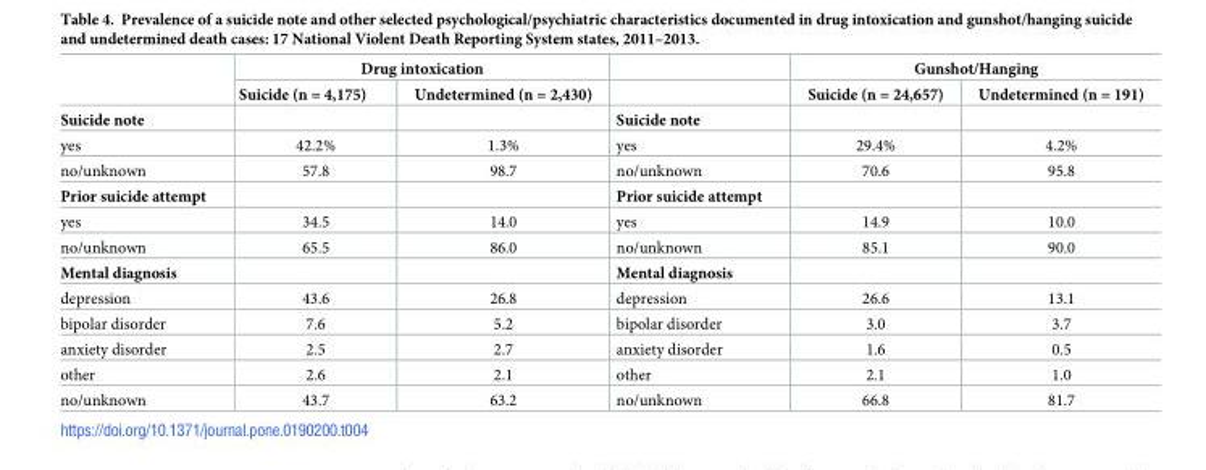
<table><thead><tr><td rowspan="2"></td><td colspan="2">Drug intoxication</td><td rowspan="2"></td><td colspan="2">Gunshot/Hanging</td></tr><tr><td>Suicide (n = 4,175)</td><td>Undetermined (n = 2,430)</td><td>Suicide (n = 24,657)</td><td>Undetermined (n = 191)</td></tr></thead><tbody><tr><td>Suicide note</td><td></td><td></td><td>Suicide note</td><td></td><td></td></tr><tr><td>yes</td><td>42.2%</td><td>1.3%</td><td>yes</td><td>29.4%</td><td>4.2%</td></tr><tr><td>no/unknown</td><td>57.8</td><td>98.7</td><td>no/unknown</td><td>70.6</td><td>95.8</td></tr><tr><td>Prior suicide attempt</td><td></td><td></td><td>Prior suicide attempt</td><td></td><td></td></tr><tr><td>yes</td><td>34.5</td><td>14.0</td><td>yes</td><td>14.9</td><td>10.0</td></tr><tr><td>no/unknown</td><td>65.5</td><td>86.0</td><td>no/unknown</td><td>85.1</td><td>90.0</td></tr><tr><td>Mental diagnosis</td><td></td><td></td><td>Mental diagnosis</td><td></td><td></td></tr><tr><td>depression</td><td>43.6</td><td>26.8</td><td>depression</td><td>26.6</td><td>13.1</td></tr><tr><td>bipolar disorder</td><td>7.6</td><td>5.2</td><td>bipolar disorder</td><td>3.0</td><td>3.7</td></tr><tr><td>anxiety disorder</td><td>2.5</td><td>2.7</td><td>anxiety disorder</td><td>1.6</td><td>0.5</td></tr><tr><td>other</td><td>2.6</td><td>2.1</td><td>other</td><td>2.1</td><td>1.0</td></tr><tr><td>no/unknown</td><td>43.7</td><td>63.2</td><td>no/unknown</td><td>66.8</td><td>81.7</td></tr></tbody></table>